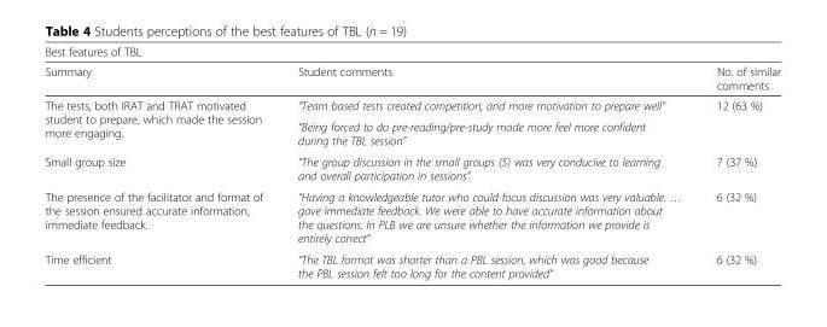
<table><thead><tr><td colspan="3">Best features of TBL</td></tr><tr><td>Summary</td><td>Student comments</td><td>No. of similar comments</td></tr></thead><tbody><tr><td rowspan="2">The tests, both IRAT and TRAT motivated student to prepare, which made the session more engaging.</td><td>“Team based tests created competition, and more motivation to prepare well”</td><td rowspan="2">12 (63 %)</td></tr><tr><td>“Being forced to do pre-reading/pre-study made more feel more confident during the TBL session”</td></tr><tr><td>Small group size</td><td>“The group discussion in the small groups (5) was very conducive to learning and overall participation in sessions”</td><td>7 (37 %)</td></tr><tr><td>The presence of the facilitator and format of the session ensured accurate information, immediate feedback.</td><td>“Having a knowledgeable tutor who could focus discussion was very valuable. … gave immediate feedback. We were able to have accurate information about the questions. In PLB we are unsure whether the information we provide is entirely correct”</td><td>6 (32 %)</td></tr><tr><td>Time efficient</td><td>“The TBL format was shorter than a PBL session, which was good because the PBL session felt too long for the content provided”</td><td>6 (32 %)</td></tr></tbody></table>